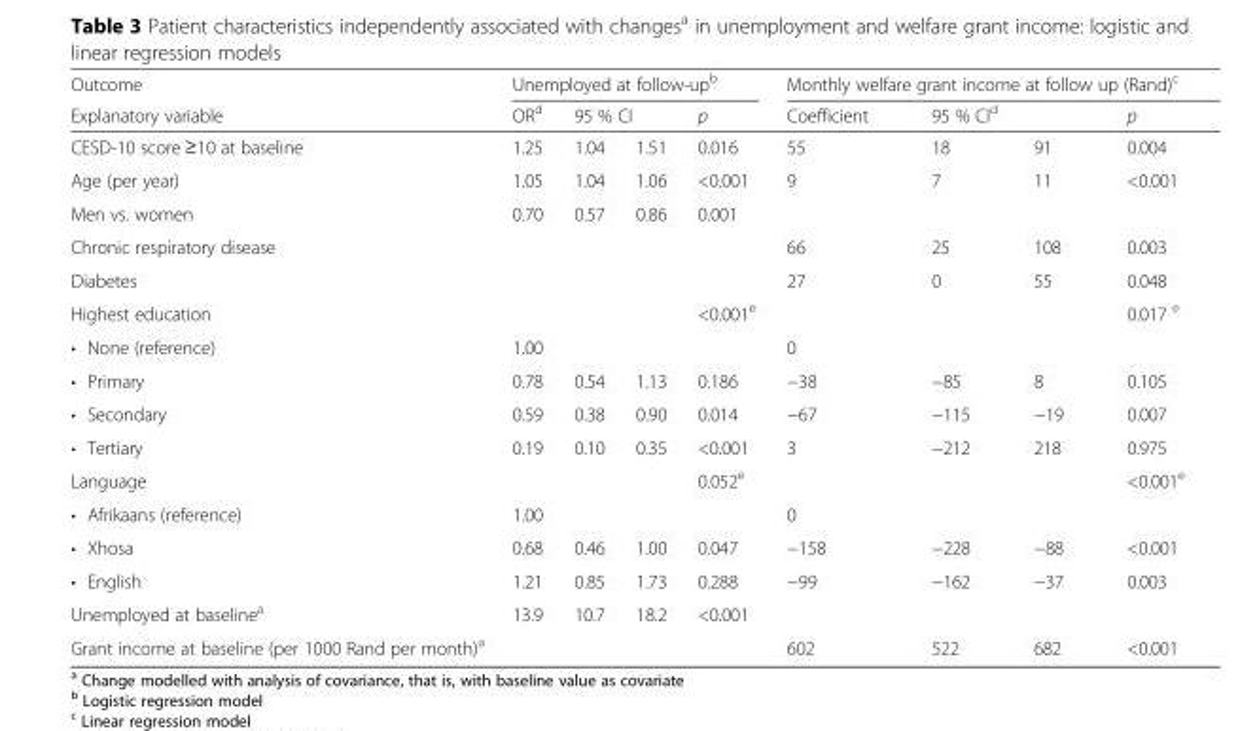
<table><thead><tr><td rowspan="3">Outcome Explanatory variable CESD-10 score ≥10 at baseline</td><td colspan="4">Unemployed at follow-up<sup>b</sup></td><td colspan="4">Monthly welfare grant income at follow up (Rand)<sup>c</sup></td></tr><tr><td rowspan="2">OR<sup>d</sup> 1.25</td><td colspan="2">95 % CI</td><td rowspan="2">p 0.016</td><td rowspan="2">Coefficient 55</td><td colspan="2">95 % CI<sup>d</sup></td><td rowspan="2">p 0.004</td></tr><tr><td>1.04</td><td>1.51</td><td>18</td><td>91</td></tr></thead><tbody><tr><td>Age (per year)</td><td>1.05</td><td>1.04</td><td>1.06</td><td>&lt;0.001</td><td>9</td><td>7</td><td>11</td><td>&lt;0.001</td></tr><tr><td>Men vs. women</td><td>0.70</td><td>0.57</td><td>0.86</td><td>0.001</td><td></td><td></td><td></td><td></td></tr><tr><td>Chronic respiratory disease</td><td></td><td></td><td></td><td></td><td>66</td><td>25</td><td>108</td><td>0.003</td></tr><tr><td>Diabetes</td><td></td><td></td><td></td><td></td><td>27</td><td>0</td><td>55</td><td>0.048</td></tr><tr><td>Highest education</td><td></td><td></td><td></td><td>&lt;0.001<sup>e</sup></td><td></td><td></td><td></td><td>0.017 <sup>e</sup></td></tr><tr><td>• None (reference)</td><td>1.00</td><td></td><td></td><td></td><td>0</td><td></td><td></td><td></td></tr><tr><td>• Primary</td><td>0.78</td><td>0.54</td><td>1.13</td><td>0.186</td><td>−38</td><td>−85</td><td>8</td><td>0.105</td></tr><tr><td>• Secondary</td><td>0.59</td><td>0.38</td><td>0.90</td><td>0.014</td><td>−67</td><td>−115</td><td>−19</td><td>0.007</td></tr><tr><td>• Tertiary</td><td>0.19</td><td>0.10</td><td>0.35</td><td>&lt;0.001</td><td>3</td><td>−212</td><td>218</td><td>0.975</td></tr><tr><td>Language</td><td></td><td></td><td></td><td>0.052<sup>e</sup></td><td></td><td></td><td></td><td>&lt;0.001<sup>e</sup></td></tr><tr><td>• Afrikaans (reference)</td><td>1.00</td><td></td><td></td><td></td><td>0</td><td></td><td></td><td></td></tr><tr><td>• Xhosa</td><td>0.68</td><td>0.46</td><td>1.00</td><td>0.047</td><td>−158</td><td>−228</td><td>−88</td><td>&lt;0.001</td></tr><tr><td>• English</td><td>1.21</td><td>0.85</td><td>1.73</td><td>0.288</td><td>−99</td><td>−162</td><td>−37</td><td>0.003</td></tr><tr><td>Unemployed at baseline<sup>a</sup></td><td>13.9</td><td>10.7</td><td>18.2</td><td>&lt;0.001</td><td></td><td></td><td></td><td></td></tr><tr><td>Grant income at baseline (per 1000 Rand per month)<sup>a</sup></td><td></td><td></td><td></td><td></td><td>602</td><td>522</td><td>682</td><td>&lt;0.001</td></tr></tbody></table>